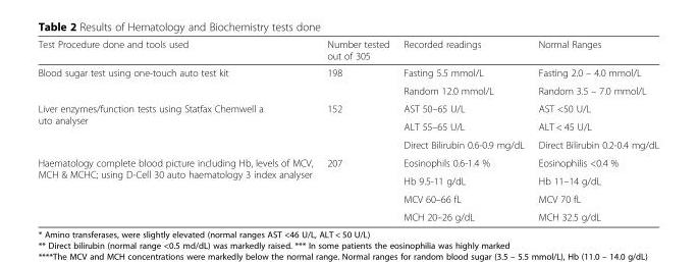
<table><thead><tr><td>Test Procedure done and tools used</td><td>Number tested out of 305</td><td>Recorded readings</td><td>Normal Ranges</td></tr></thead><tbody><tr><td rowspan="2">Blood sugar test using one-touch auto test kit</td><td rowspan="2">198</td><td>Fasting 5.5 mmol/L</td><td>Fasting 2.0 – 4.0 mmol/L</td></tr><tr><td>Random 12.0 mmol/L</td><td>Random 3.5 – 7.0 mmol/L</td></tr><tr><td rowspan="3">Liver enzymes/function tests using Statfax Chemwell a uto analyser</td><td rowspan="3">152</td><td>AST 50–65 U/L</td><td>AST &lt;50 U/L</td></tr><tr><td>ALT 55–65 U/L</td><td>ALT &lt; 45 U/L</td></tr><tr><td>Direct Bilirubin 0.6-0.9 mg/dL</td><td>Direct Bilirubin 0.2-0.4 mg/dL</td></tr><tr><td rowspan="4">Haematology complete blood picture including Hb, levels of MCV, MCH &amp; MCHC; using D-Cell 30 auto haematology 3 index analyser</td><td rowspan="4">207</td><td>Eosinophils 0.6-1.4 %</td><td>Eosinophilis &lt;0.4 %</td></tr><tr><td>Hb 9.5-11 g/dL</td><td>Hb 11–14 g/dL</td></tr><tr><td>MCV 60–66 fL</td><td>MCV 70 fL</td></tr><tr><td>MCH 20–26 g/dL</td><td>MCH 32.5 g/dL</td></tr></tbody></table>